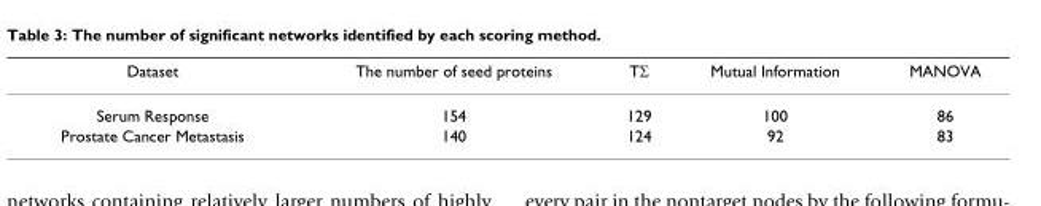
<table><thead><tr><td>Dataset</td><td>The number of seed proteins</td><td>TΣ</td><td>Mutual Information</td><td>MANOVA</td></tr></thead><tbody><tr><td>Serum Response</td><td>154</td><td>129</td><td>100</td><td>86</td></tr><tr><td>Prostate Cancer Metastasis</td><td>140</td><td>124</td><td>92</td><td>83</td></tr></tbody></table>